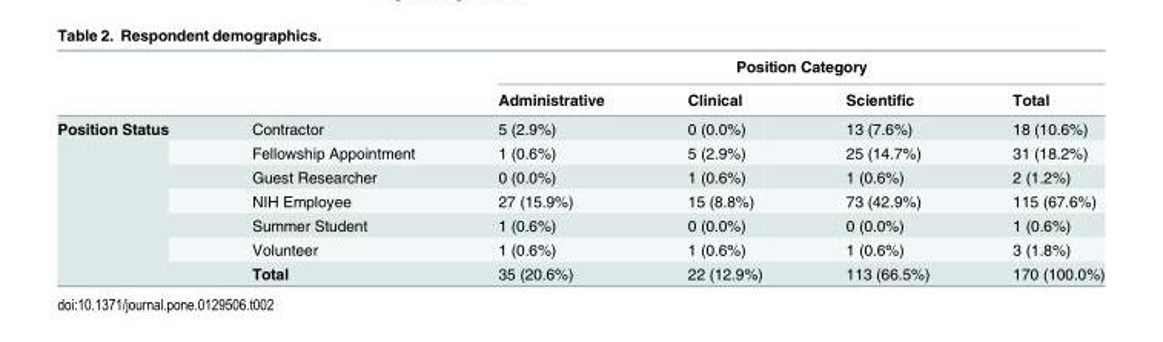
<table><thead><tr><td rowspan="2"></td><td rowspan="2"></td><td colspan="4">Position Category</td></tr><tr><td>Administrative</td><td>Clinical</td><td>Scientific</td><td>Total</td></tr></thead><tbody><tr><td rowspan="7">Position Status</td><td>Contractor</td><td>5 (2.9%)</td><td>0 (0.0%)</td><td>13 (7.6%)</td><td>18 (10.6%)</td></tr><tr><td>Fellowship Appointment</td><td>1 (0.6%)</td><td>5 (2.9%)</td><td>25 (14.7%)</td><td>31 (18.2%)</td></tr><tr><td>Guest Researcher</td><td>0 (0.0%)</td><td>1 (0.6%)</td><td>1 (0.6%)</td><td>2 (1.2%)</td></tr><tr><td>NIH Employee</td><td>27 (15.9%)</td><td>15 (8.8%)</td><td>73 (42.9%)</td><td>115 (67.6%)</td></tr><tr><td>Summer Student</td><td>1 (0.6%)</td><td>0 (0.0%)</td><td>0 (0.0%)</td><td>1 (0.6%)</td></tr><tr><td>Volunteer</td><td>1 (0.6%)</td><td>1 (0.6%)</td><td>1 (0.6%)</td><td>3 (1.8%)</td></tr><tr><td>Total</td><td>35 (20.6%)</td><td>22 (12.9%)</td><td>113 (66.5%)</td><td>170 (100.0%)</td></tr></tbody></table>